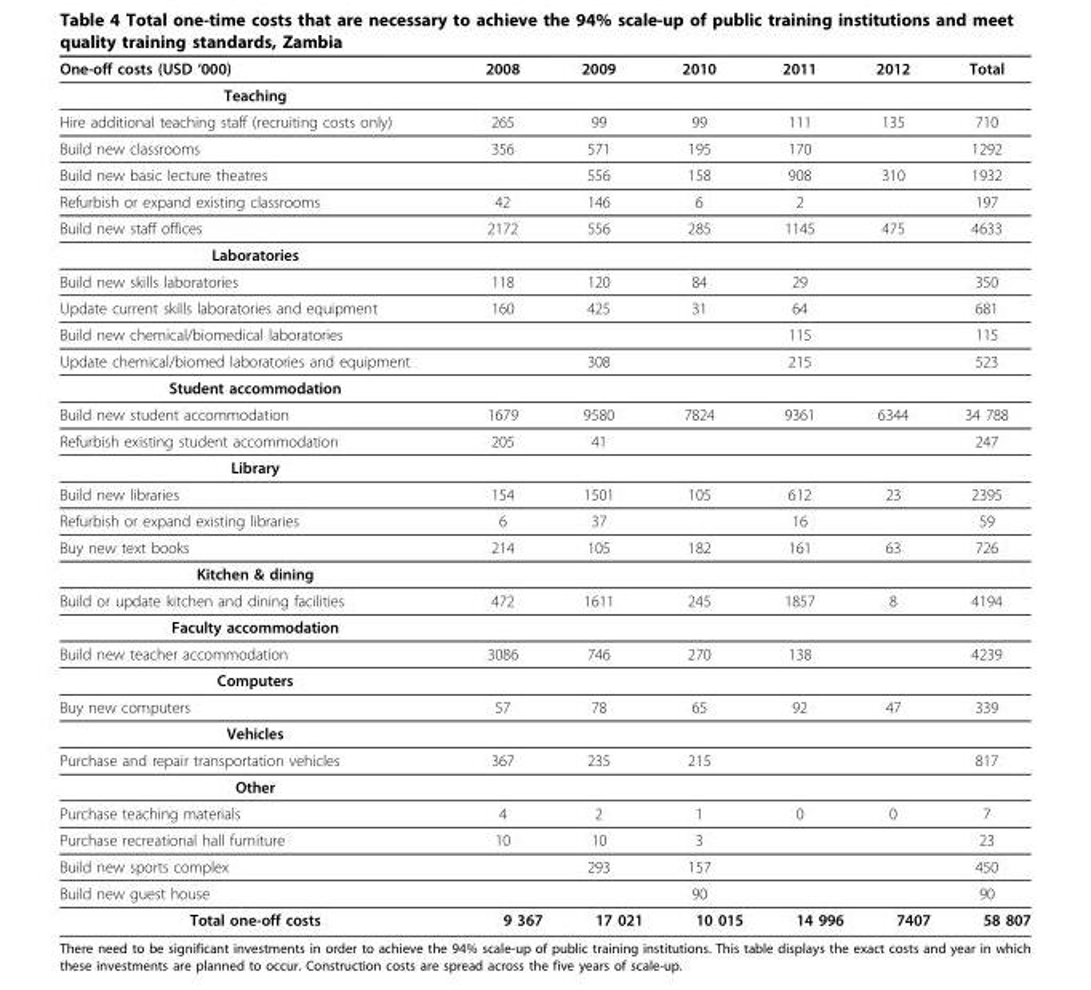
<table><thead><tr><td>One-off costs (USD ‘000)</td><td>2008</td><td>2009</td><td>2010</td><td>2011</td><td>2012</td><td>Total</td></tr></thead><tbody><tr><td colspan="7">Teaching</td></tr><tr><td>Hire additional teaching staff (recruiting costs only)</td><td>265</td><td>99</td><td>99</td><td>111</td><td>135</td><td>710</td></tr><tr><td>Build new classrooms</td><td>356</td><td>571</td><td>195</td><td>170</td><td></td><td>1292</td></tr><tr><td>Build new basic lecture theatres</td><td></td><td>556</td><td>158</td><td>908</td><td>310</td><td>1932</td></tr><tr><td>Refurbish or expand existing classrooms</td><td>42</td><td>146</td><td>6</td><td>2</td><td></td><td>197</td></tr><tr><td>Build new staff offices</td><td>2172</td><td>556</td><td>285</td><td>1145</td><td>475</td><td>4633</td></tr><tr><td colspan="7">Laboratories</td></tr><tr><td>Build new skills laboratories</td><td>118</td><td>120</td><td>84</td><td>29</td><td></td><td>350</td></tr><tr><td>Update current skills laboratories and equipment</td><td>160</td><td>425</td><td>31</td><td>64</td><td></td><td>681</td></tr><tr><td>Build new chemical/biomedical laboratories</td><td></td><td></td><td></td><td>115</td><td></td><td>115</td></tr><tr><td>Update chemical/biomed laboratories and equipment</td><td></td><td>308</td><td></td><td>215</td><td></td><td>523</td></tr><tr><td colspan="7">Student accommodation</td></tr><tr><td>Build new student accommodation</td><td>1679</td><td>9580</td><td>7824</td><td>9361</td><td>6344</td><td>34 788</td></tr><tr><td>Refurbish existing student accommodation</td><td>205</td><td>41</td><td></td><td></td><td></td><td>247</td></tr><tr><td colspan="7">Library</td></tr><tr><td>Build new libraries</td><td>154</td><td>1501</td><td>105</td><td>612</td><td>23</td><td>2395</td></tr><tr><td>Refurbish or expand existing libraries</td><td>6</td><td>37</td><td></td><td>16</td><td></td><td>59</td></tr><tr><td>Buy new text books</td><td>214</td><td>105</td><td>182</td><td>161</td><td>63</td><td>726</td></tr><tr><td colspan="7">Kitchen &amp; dining</td></tr><tr><td>Build or update kitchen and dining facilities</td><td>472</td><td>1611</td><td>245</td><td>1857</td><td>8</td><td>4194</td></tr><tr><td colspan="7">Faculty accommodation</td></tr><tr><td>Build new teacher accommodation</td><td>3086</td><td>746</td><td>270</td><td>138</td><td></td><td>4239</td></tr><tr><td colspan="7">Computers</td></tr><tr><td>Buy new computers</td><td>57</td><td>78</td><td>65</td><td>92</td><td>47</td><td>339</td></tr><tr><td colspan="7">Vehicles</td></tr><tr><td>Purchase and repair transportation vehicles</td><td>367</td><td>235</td><td>215</td><td></td><td></td><td>817</td></tr><tr><td colspan="7">Other</td></tr><tr><td>Purchase teaching materials</td><td>4</td><td>2</td><td>1</td><td>0</td><td>0</td><td>7</td></tr><tr><td>Purchase recreational hall furniture</td><td>10</td><td>10</td><td>3</td><td></td><td></td><td>23</td></tr><tr><td>Build new sports complex</td><td></td><td>293</td><td>157</td><td></td><td></td><td>450</td></tr><tr><td>Build new guest house</td><td></td><td></td><td>90</td><td></td><td></td><td>90</td></tr><tr><td>Total one-off costs</td><td>9 367</td><td>17 021</td><td>10 015</td><td>14 996</td><td>7407</td><td>58 807</td></tr></tbody></table>